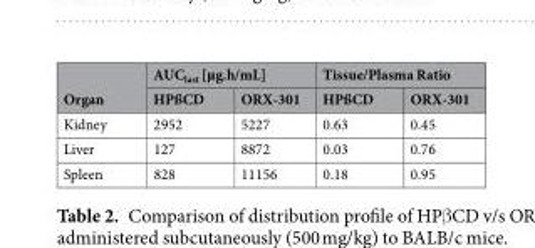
<table><thead><tr><td rowspan="2">Organ</td><td colspan="2">AUC<sub>last</sub> [µg.h/mL]</td><td colspan="2">Tissue/Plasma Ratio</td></tr><tr><td>HPßCD</td><td>ORX-301</td><td>HPßCD</td><td>ORX-301</td></tr></thead><tbody><tr><td>Kidney</td><td>2952</td><td>5227</td><td>0.63</td><td>0.45</td></tr><tr><td>Liver</td><td>127</td><td>8872</td><td>0.03</td><td>0.76</td></tr><tr><td>Spleen</td><td>828</td><td>11156</td><td>0.18</td><td>0.95</td></tr></tbody></table>